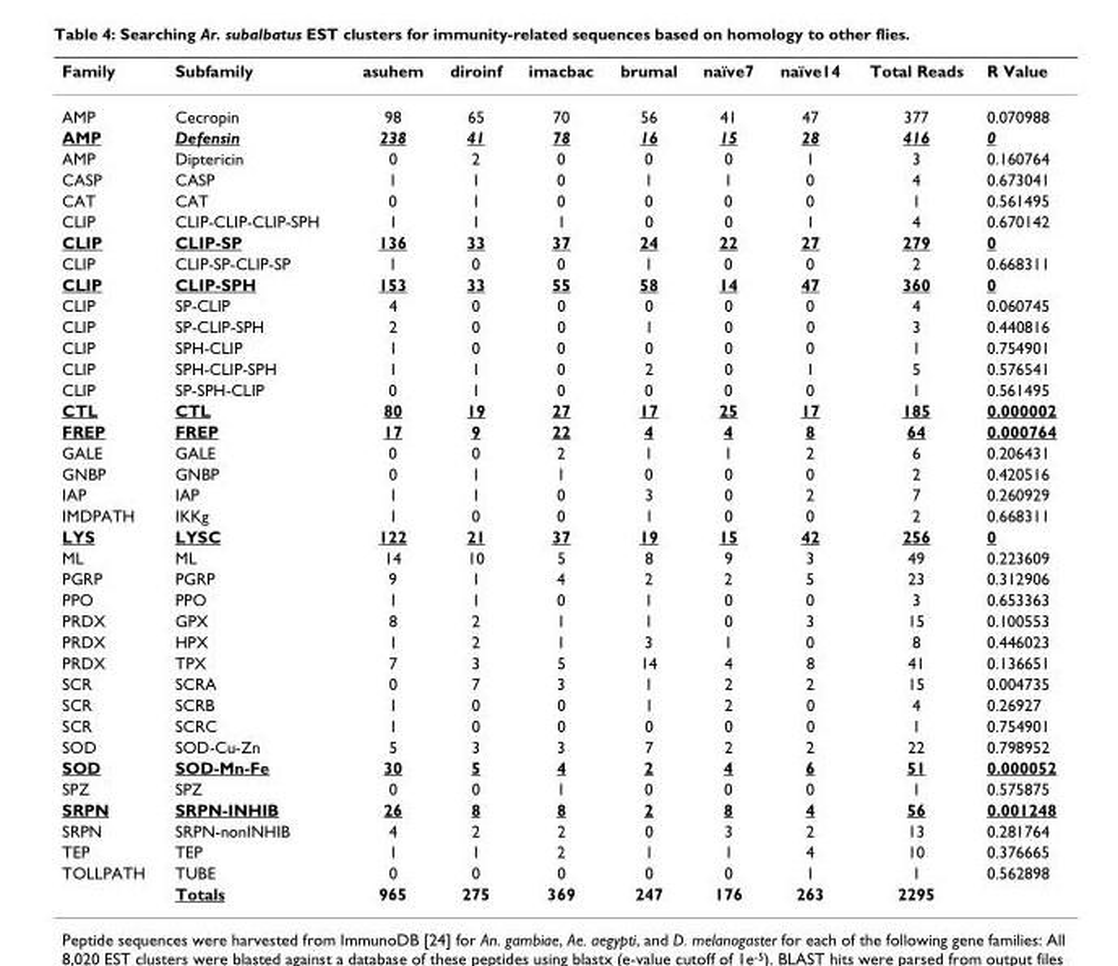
<table><thead><tr><td>Family</td><td>Subfamily</td><td>asuhem</td><td>diroinf</td><td>imacbac</td><td>brumal</td><td>naïve7</td><td>naïve14</td><td>Total Reads</td><td>R Value</td></tr></thead><tbody><tr><td>AMP</td><td>Cecropin</td><td>98</td><td>65</td><td>70</td><td>56</td><td>41</td><td>47</td><td>377</td><td>0.070988</td></tr><tr><td>AMP</td><td>Defensin</td><td>238</td><td>41</td><td>78</td><td>16</td><td>15</td><td>28</td><td>416</td><td>0</td></tr><tr><td>AMP</td><td>Diptericin</td><td>0</td><td>2</td><td>0</td><td>0</td><td>0</td><td>1</td><td>3</td><td>0.160764</td></tr><tr><td>CASP</td><td>CASP</td><td>1</td><td>1</td><td>0</td><td>1</td><td>1</td><td>0</td><td>4</td><td>0.673041</td></tr><tr><td>CAT</td><td>CAT</td><td>0</td><td>1</td><td>0</td><td>0</td><td>0</td><td>0</td><td>1</td><td>0.561495</td></tr><tr><td>CLIP</td><td>CLIP-CLIP-CLIP-SPH</td><td>1</td><td>1</td><td>1</td><td>0</td><td>0</td><td>1</td><td>4</td><td>0.670142</td></tr><tr><td>CLIP</td><td>CLIP-SP</td><td>136</td><td>33</td><td>37</td><td>24</td><td>22</td><td>27</td><td>279</td><td>0</td></tr><tr><td>CLIP</td><td>CLIP-SP-CLIP-SP</td><td>1</td><td>0</td><td>0</td><td>1</td><td>0</td><td>0</td><td>2</td><td>0.668311</td></tr><tr><td>CLIP</td><td>CLIP-SPH</td><td>153</td><td>33</td><td>55</td><td>58</td><td>14</td><td>47</td><td>360</td><td>0</td></tr><tr><td>CLIP</td><td>SP-CLIP</td><td>4</td><td>0</td><td>0</td><td>0</td><td>0</td><td>0</td><td>4</td><td>0.060745</td></tr><tr><td>CLIP</td><td>SP-CLIP-SPH</td><td>2</td><td>0</td><td>0</td><td>1</td><td>0</td><td>0</td><td>3</td><td>0.440816</td></tr><tr><td>CLIP</td><td>SPH-CLIP</td><td>1</td><td>0</td><td>0</td><td>0</td><td>0</td><td>0</td><td>1</td><td>0.754901</td></tr><tr><td>CLIP</td><td>SPH-CLIP-SPH</td><td>1</td><td>1</td><td>0</td><td>2</td><td>0</td><td>1</td><td>5</td><td>0.576541</td></tr><tr><td>CLIP</td><td>SP-SPH-CLIP</td><td>0</td><td>1</td><td>0</td><td>0</td><td>0</td><td>0</td><td>1</td><td>0.561495</td></tr><tr><td>CTL</td><td>CTL</td><td>80</td><td>19</td><td>27</td><td>17</td><td>25</td><td>17</td><td>185</td><td>0.000002</td></tr><tr><td>FREP</td><td>FREP</td><td>17</td><td>9</td><td>22</td><td>4</td><td>4</td><td>8</td><td>64</td><td>0.000764</td></tr><tr><td>GALE</td><td>GALE</td><td>0</td><td>0</td><td>2</td><td>1</td><td>1</td><td>2</td><td>6</td><td>0.206431</td></tr><tr><td>GNBP</td><td>GNBP</td><td>0</td><td>1</td><td>1</td><td>0</td><td>0</td><td>0</td><td>2</td><td>0.420516</td></tr><tr><td>IAP</td><td>IAP</td><td>1</td><td>1</td><td>0</td><td>3</td><td>0</td><td>2</td><td>7</td><td>0.260929</td></tr><tr><td>IMDPATH</td><td>IKKg</td><td>1</td><td>0</td><td>0</td><td>1</td><td>0</td><td>0</td><td>2</td><td>0.668311</td></tr><tr><td>LYS</td><td>LYSC</td><td>122</td><td>21</td><td>37</td><td>19</td><td>15</td><td>42</td><td>256</td><td>0</td></tr><tr><td>ML</td><td>ML</td><td>14</td><td>10</td><td>5</td><td>8</td><td>9</td><td>3</td><td>49</td><td>0.223609</td></tr><tr><td>PGRP</td><td>PGRP</td><td>9</td><td>1</td><td>4</td><td>2</td><td>2</td><td>5</td><td>23</td><td>0.312906</td></tr><tr><td>PPO</td><td>PPO</td><td>1</td><td>1</td><td>0</td><td>1</td><td>0</td><td>0</td><td>3</td><td>0.653363</td></tr><tr><td>PRDX</td><td>GPX</td><td>8</td><td>2</td><td>1</td><td>1</td><td>0</td><td>3</td><td>15</td><td>0.100553</td></tr><tr><td>PRDX</td><td>HPX</td><td>1</td><td>2</td><td>1</td><td>3</td><td>1</td><td>0</td><td>8</td><td>0.446023</td></tr><tr><td>PRDX</td><td>TPX</td><td>7</td><td>3</td><td>5</td><td>14</td><td>4</td><td>8</td><td>41</td><td>0.136651</td></tr><tr><td>SCR</td><td>SCRA</td><td>0</td><td>7</td><td>3</td><td>1</td><td>2</td><td>2</td><td>15</td><td>0.004735</td></tr><tr><td>SCR</td><td>SCRB</td><td>1</td><td>0</td><td>0</td><td>1</td><td>2</td><td>0</td><td>4</td><td>0.26927</td></tr><tr><td>SCR</td><td>SCRC</td><td>1</td><td>0</td><td>0</td><td>0</td><td>0</td><td>0</td><td>1</td><td>0.754901</td></tr><tr><td>SOD</td><td>SOD-Cu-Zn</td><td>5</td><td>3</td><td>3</td><td>7</td><td>2</td><td>2</td><td>22</td><td>0.798952</td></tr><tr><td>SOD</td><td>SOD-Mn-Fe</td><td>30</td><td>5</td><td>4</td><td>2</td><td>4</td><td>6</td><td>51</td><td>0.000052</td></tr><tr><td>SPZ</td><td>SPZ</td><td>0</td><td>0</td><td>1</td><td>0</td><td>0</td><td>0</td><td>1</td><td>0.575875</td></tr><tr><td>SRPN</td><td>SRPN-INHIB</td><td>26</td><td>8</td><td>8</td><td>2</td><td>8</td><td>4</td><td>56</td><td>0.001248</td></tr><tr><td>SRPN</td><td>SRPN-nonINHIB</td><td>4</td><td>2</td><td>2</td><td>0</td><td>3</td><td>2</td><td>13</td><td>0.281764</td></tr><tr><td>TEP</td><td>TEP</td><td>1</td><td>1</td><td>2</td><td>1</td><td>1</td><td>4</td><td>10</td><td>0.376665</td></tr><tr><td rowspan="2">TOLLPATH</td><td>TUBE</td><td>0</td><td>0</td><td>0</td><td>0</td><td>0</td><td>1</td><td>1</td><td>0.562898</td></tr><tr><td>Totals</td><td>965</td><td>275</td><td>369</td><td>247</td><td>176</td><td>263</td><td>2295</td><td></td></tr></tbody></table>